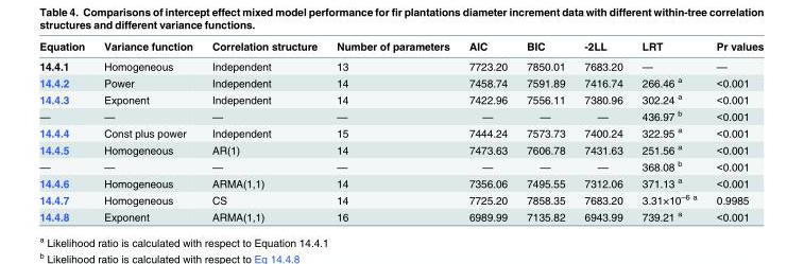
<table><thead><tr><td>Equation</td><td>Variance function</td><td>Correlation structure</td><td>Number of parameters</td><td>AIC</td><td>BIC</td><td>-2LL</td><td>LRT</td><td>Pr values</td></tr></thead><tbody><tr><td>14.4.1</td><td>Homogeneous</td><td>Independent</td><td>13</td><td>7723.20</td><td>7850.01</td><td>7683.20</td><td>—</td><td>—</td></tr><tr><td>14.4.2</td><td>Power</td><td>Independent</td><td>14</td><td>7458.74</td><td>7591.89</td><td>7416.74</td><td>266.46 <sup>a</sup></td><td>&lt;0.001</td></tr><tr><td>14.4.3</td><td>Exponent</td><td>Independent</td><td>14</td><td>7422.96</td><td>7556.11</td><td>7380.96</td><td>302.24 <sup>a</sup></td><td>&lt;0.001</td></tr><tr><td>—</td><td>—</td><td>—</td><td>—</td><td>—</td><td>—</td><td>—</td><td>436.97 <sup>b</sup></td><td>&lt;0.001</td></tr><tr><td>14.4.4</td><td>Const plus power</td><td>Independent</td><td>15</td><td>7444.24</td><td>7573.73</td><td>7400.24</td><td>322.95 <sup>a</sup></td><td>&lt;0.001</td></tr><tr><td>14.4.5</td><td>Homogeneous</td><td>AR(1)</td><td>14</td><td>7473.63</td><td>7606.78</td><td>7431.63</td><td>251.56 <sup>a</sup></td><td>&lt;0.001</td></tr><tr><td>—</td><td>—</td><td>—</td><td>—</td><td>—</td><td>—</td><td>—</td><td>368.08 <sup>b</sup></td><td>&lt;0.001</td></tr><tr><td>14.4.6</td><td>Homogeneous</td><td>ARMA(1,1)</td><td>14</td><td>7356.06</td><td>7495.55</td><td>7312.06</td><td>371.13 <sup>a</sup></td><td>&lt;0.001</td></tr><tr><td>14.4.7</td><td>Homogeneous</td><td>CS</td><td>14</td><td>7725.20</td><td>7858.35</td><td>7683.20</td><td>3.31×10<sup>–6 a</sup></td><td>0.9985</td></tr><tr><td>14.4.8</td><td>Exponent</td><td>ARMA(1,1)</td><td>16</td><td>6989.99</td><td>7135.82</td><td>6943.99</td><td>739.21 <sup>a</sup></td><td>&lt;0.001</td></tr></tbody></table>